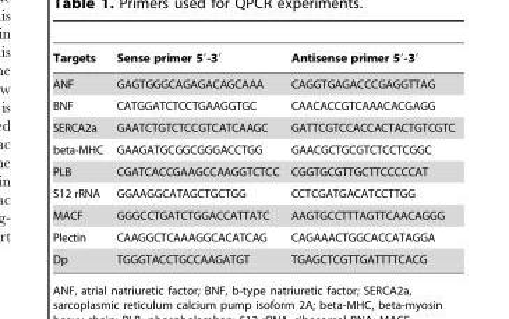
<table><thead><tr><td>Targets</td><td>Sense primer 5′-3′</td><td>Antisense primer 5′-3′</td></tr></thead><tbody><tr><td>ANF</td><td>GAGTGGGCAGAGACAGCAAA</td><td>CAGGTGAGACCCGAGGTTAG</td></tr><tr><td>BNF</td><td>CATGGATCTCCTGAAGGTGC</td><td>CAACACCGTCAAACACGAGG</td></tr><tr><td>SERCA2a</td><td>GAATCTGTCTCCGTCATCAAGC</td><td>GATTCGTCCACCACTACTGTCGTC</td></tr><tr><td>beta-MHC</td><td>GAAGATGCGGCGGGACCTGG</td><td>GAACGCTGCGTCTCCTCGGC</td></tr><tr><td>PLB</td><td>CGATCACCGAAGCCAAGGTCTCC</td><td>CGGTGCGTTGCTTCCCCCAT</td></tr><tr><td>S12 rRNA</td><td>GGAAGGCATAGCTGCTGG</td><td>CCTCGATGACATCCTTGG</td></tr><tr><td>MACF</td><td>GGGCCTGATCTGGACCATTATC</td><td>AAGTGCCTTTAGTTCAACAGGG</td></tr><tr><td>Plectin</td><td>CAAGGCTCAAAGGCACATCAG</td><td>CAGAAACTGGCACCATAGGA</td></tr><tr><td>Dp</td><td>TGGGTACCTGCCAAGATGT</td><td>TGAGCTCGTTGATTTTCACG</td></tr></tbody></table>